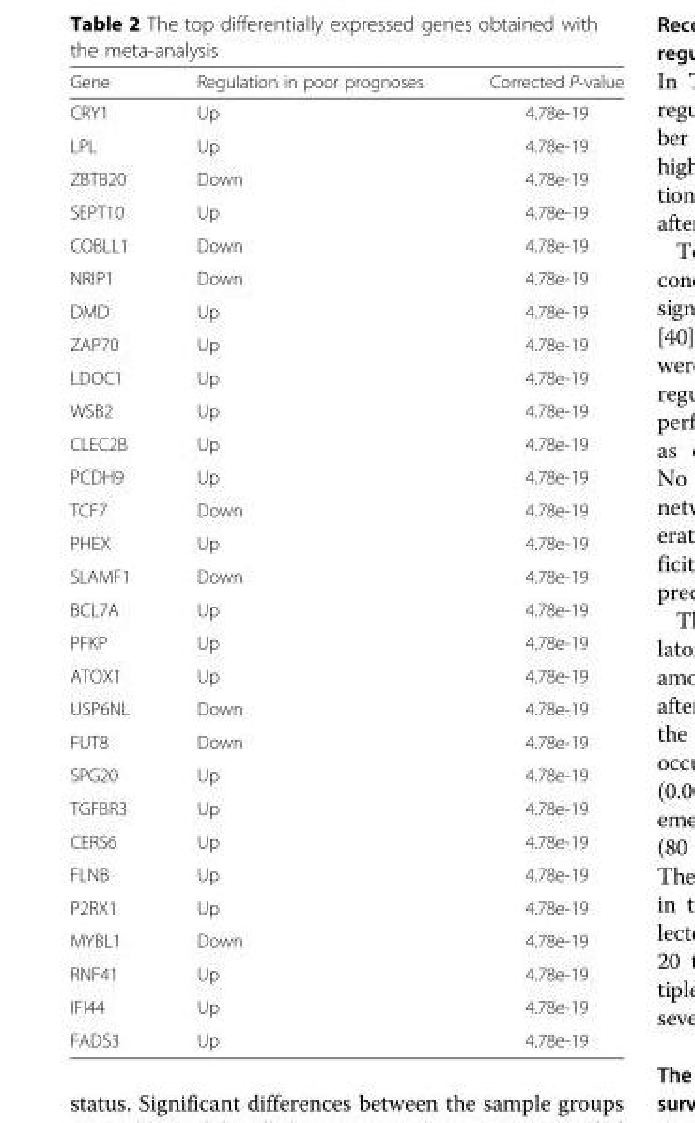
<table><thead><tr><td>Gene</td><td>Regulation in poor prognoses</td><td>Corrected P-value</td></tr></thead><tbody><tr><td>CRY1</td><td>Up</td><td>4.78e-19</td></tr><tr><td>LPL</td><td>Up</td><td>4.78e-19</td></tr><tr><td>ZBTB20</td><td>Down</td><td>4.78e-19</td></tr><tr><td>SEPT10</td><td>Up</td><td>4.78e-19</td></tr><tr><td>COBLL1</td><td>Down</td><td>4.78e-19</td></tr><tr><td>NRIP1</td><td>Down</td><td>4.78e-19</td></tr><tr><td>DMD</td><td>Up</td><td>4.78e-19</td></tr><tr><td>ZAP70</td><td>Up</td><td>4.78e-19</td></tr><tr><td>LDOC1</td><td>Up</td><td>4.78e-19</td></tr><tr><td>WSB2</td><td>Up</td><td>4.78e-19</td></tr><tr><td>CLEC2B</td><td>Up</td><td>4.78e-19</td></tr><tr><td>PCDH9</td><td>Up</td><td>4.78e-19</td></tr><tr><td>TCF7</td><td>Down</td><td>4.78e-19</td></tr><tr><td>PHEX</td><td>Up</td><td>4.78e-19</td></tr><tr><td>SLAMF1</td><td>Down</td><td>4.78e-19</td></tr><tr><td>BCL7A</td><td>Up</td><td>4.78e-19</td></tr><tr><td>PFKP</td><td>Up</td><td>4.78e-19</td></tr><tr><td>ATOX1</td><td>Up</td><td>4.78e-19</td></tr><tr><td>USP6NL</td><td>Down</td><td>4.78e-19</td></tr><tr><td>FUT8</td><td>Down</td><td>4.78e-19</td></tr><tr><td>SPG20</td><td>Up</td><td>4.78e-19</td></tr><tr><td>TGFBR3</td><td>Up</td><td>4.78e-19</td></tr><tr><td>CERS6</td><td>Up</td><td>4.78e-19</td></tr><tr><td>FLNB</td><td>Up</td><td>4.78e-19</td></tr><tr><td>P2RX1</td><td>Up</td><td>4.78e-19</td></tr><tr><td>MYBL1</td><td>Down</td><td>4.78e-19</td></tr><tr><td>RNF41</td><td>Up</td><td>4.78e-19</td></tr><tr><td>IFI44</td><td>Up</td><td>4.78e-19</td></tr><tr><td>FADS3</td><td>Up</td><td>4.78e-19</td></tr></tbody></table>